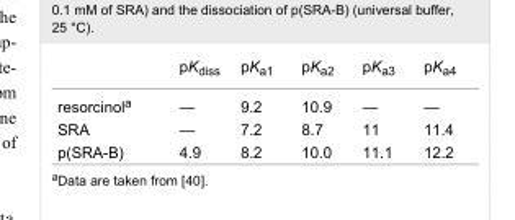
<table><thead><tr><td></td><td>pK<sub>diss</sub></td><td>pK<sub>a1</sub></td><td>pK<sub>a2</sub></td><td>pK<sub>a3</sub></td><td>pK<sub>a4</sub></td></tr></thead><tbody><tr><td>resorcinol<sup>a</sup></td><td>—</td><td>9.2</td><td>10.9</td><td>—</td><td>—</td></tr><tr><td>SRA</td><td>—</td><td>7.2</td><td>8.7</td><td>11</td><td>11.4</td></tr><tr><td>p(SRA-B)</td><td>4.9</td><td>8.2</td><td>10.0</td><td>11.1</td><td>12.2</td></tr></tbody></table>